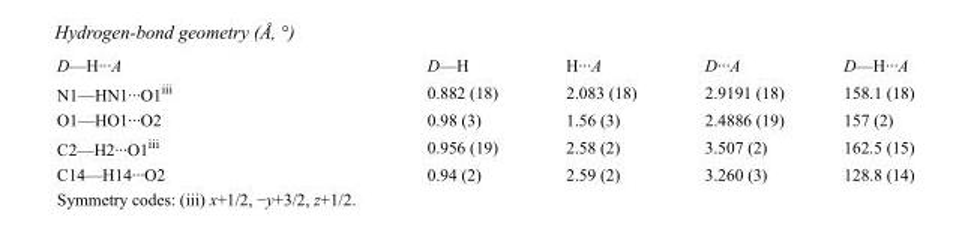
<table><tbody><tr><td>D—H···A</td><td>D—H</td><td>H···A</td><td>D···A</td><td>D—H···A</td></tr><tr><td>N1—HN1···O1<sup>iii</sup></td><td>0.882 (18)</td><td>2.083 (18)</td><td>2.9191 (18)</td><td>158.1 (18)</td></tr><tr><td>O1—HO1···O2</td><td>0.98 (3)</td><td>1.56 (3)</td><td>2.4886 (19)</td><td>157 (2)</td></tr><tr><td>C2—H2···O1<sup>iii</sup></td><td>0.956 (19)</td><td>2.58 (2)</td><td>3.507 (2)</td><td>162.5 (15)</td></tr><tr><td>C14—H14···O2</td><td>0.94 (2)</td><td>2.59 (2)</td><td>3.260 (3)</td><td>128.8 (14)</td></tr></tbody></table>